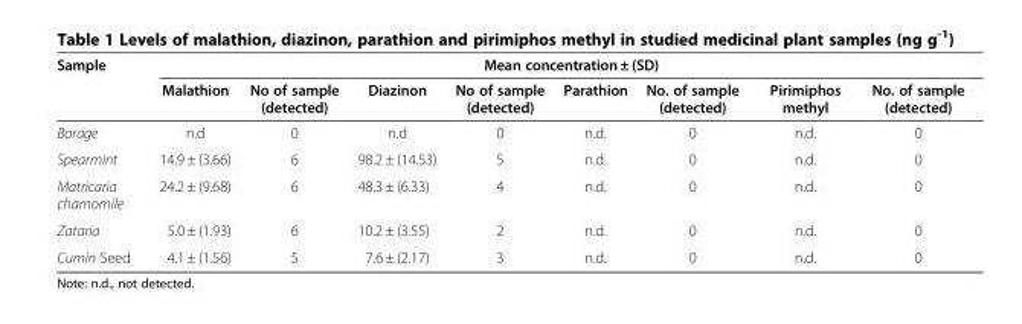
<table><thead><tr><td rowspan="2">Sample</td><td colspan="8">Mean concentration ± (SD)</td></tr><tr><td>Malathion</td><td>No of sample (detected)</td><td>Diazinon</td><td>No of sample (detected)</td><td>Parathion</td><td>No. of sample (detected)</td><td>Pirimiphos methyl</td><td>No. of sample (detected)</td></tr></thead><tbody><tr><td>Borage</td><td>n.d</td><td>0</td><td>n.d</td><td>0</td><td>n.d.</td><td>0</td><td>n.d.</td><td>0</td></tr><tr><td>Spearmint</td><td>14.9 ± (3.66)</td><td>6</td><td>98.2 ± (14.53)</td><td>5</td><td>n.d.</td><td>0</td><td>n.d.</td><td>0</td></tr><tr><td>Matricaria chamomile</td><td>24.2 ± (9.68)</td><td>6</td><td>48.3 ± (6.33)</td><td>4</td><td>n.d.</td><td>0</td><td>n.d.</td><td>0</td></tr><tr><td>Zataria</td><td>5.0 ± (1.93)</td><td>6</td><td>10.2 ± (3.55)</td><td>2</td><td>n.d.</td><td>0</td><td>n.d.</td><td>0</td></tr><tr><td>Cumin Seed</td><td>4.1 ± (1.56)</td><td>5</td><td>7.6 ± (2.17)</td><td>3</td><td>n.d.</td><td>0</td><td>n.d.</td><td>0</td></tr></tbody></table>